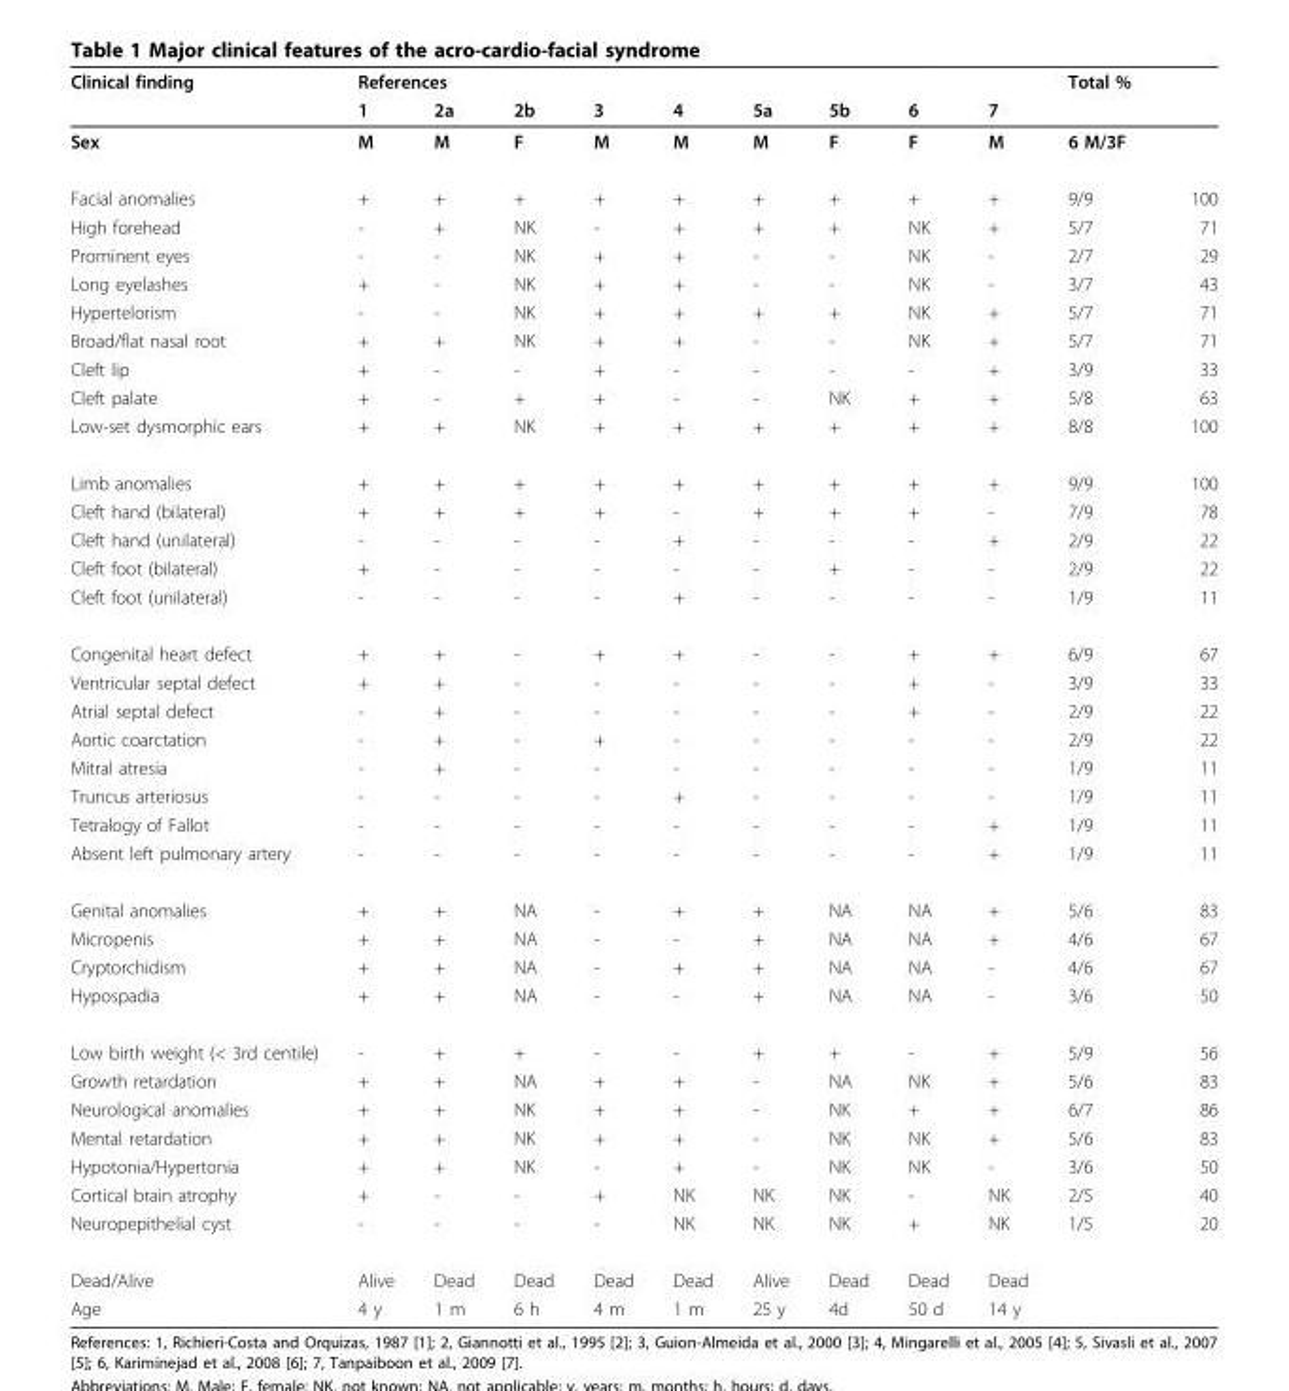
<table><thead><tr><td rowspan="2">Clinical finding</td><td colspan="9">References</td><td colspan="2">Total %</td></tr><tr><td>1</td><td>2a</td><td>2b</td><td>3</td><td>4</td><td>5a</td><td>5b</td><td>6</td><td>7</td><td></td><td></td></tr></thead><tbody><tr><td>Sex</td><td>M</td><td>M</td><td>F</td><td>M</td><td>M</td><td>M</td><td>F</td><td>F</td><td>M</td><td>6 M/3F</td><td></td></tr><tr><td>Facial anomalies</td><td>+</td><td>+</td><td>+</td><td>+</td><td>+</td><td>+</td><td>+</td><td>+</td><td>+</td><td>9/9</td><td>100</td></tr><tr><td>High forehead</td><td>-</td><td>+</td><td>NK</td><td>-</td><td>+</td><td>+</td><td>+</td><td>NK</td><td>+</td><td>5/7</td><td>71</td></tr><tr><td>Prominent eyes</td><td>-</td><td>-</td><td>NK</td><td>+</td><td>+</td><td>-</td><td>-</td><td>NK</td><td>-</td><td>2/7</td><td>29</td></tr><tr><td>Long eyelashes</td><td>+</td><td>-</td><td>NK</td><td>+</td><td>+</td><td>-</td><td>-</td><td>NK</td><td>-</td><td>3/7</td><td>43</td></tr><tr><td>Hypertelorism</td><td>-</td><td>-</td><td>NK</td><td>+</td><td>+</td><td>+</td><td>+</td><td>NK</td><td>+</td><td>5/7</td><td>71</td></tr><tr><td>Broad/flat nasal root</td><td>+</td><td>+</td><td>NK</td><td>+</td><td>+</td><td>-</td><td>-</td><td>NK</td><td>+</td><td>5/7</td><td>71</td></tr><tr><td>Cleft lip</td><td>+</td><td>-</td><td>-</td><td>+</td><td>-</td><td>-</td><td>-</td><td>-</td><td>+</td><td>3/9</td><td>33</td></tr><tr><td>Cleft palate</td><td>+</td><td>-</td><td>+</td><td>+</td><td>-</td><td>-</td><td>NK</td><td>+</td><td>+</td><td>5/8</td><td>63</td></tr><tr><td>Low-set dysmorphic ears</td><td>+</td><td>+</td><td>NK</td><td>+</td><td>+</td><td>+</td><td>+</td><td>+</td><td>+</td><td>8/8</td><td>100</td></tr><tr><td>Limb anomalies</td><td>+</td><td>+</td><td>+</td><td>+</td><td>+</td><td>+</td><td>+</td><td>+</td><td>+</td><td>9/9</td><td>100</td></tr><tr><td>Cleft hand (bilateral)</td><td>+</td><td>+</td><td>+</td><td>+</td><td>-</td><td>+</td><td>+</td><td>+</td><td>-</td><td>7/9</td><td>78</td></tr><tr><td>Cleft hand (unilateral)</td><td>-</td><td>-</td><td>-</td><td>-</td><td>+</td><td>-</td><td>-</td><td>-</td><td>+</td><td>2/9</td><td>22</td></tr><tr><td>Cleft foot (bilateral)</td><td>+</td><td>-</td><td>-</td><td>-</td><td>-</td><td>-</td><td>+</td><td>-</td><td>-</td><td>2/9</td><td>22</td></tr><tr><td>Cleft foot (unilateral)</td><td>-</td><td>-</td><td>-</td><td>-</td><td>+</td><td>-</td><td>-</td><td>-</td><td>-</td><td>1/9</td><td>11</td></tr><tr><td>Congenital heart defect</td><td>+</td><td>+</td><td>-</td><td>+</td><td>+</td><td>-</td><td>-</td><td>+</td><td>+</td><td>6/9</td><td>67</td></tr><tr><td>Ventricular septal defect</td><td>+</td><td>+</td><td>-</td><td>-</td><td>-</td><td>-</td><td>-</td><td>+</td><td>-</td><td>3/9</td><td>33</td></tr><tr><td>Atrial septal defect</td><td>-</td><td>+</td><td>-</td><td>-</td><td>-</td><td>-</td><td>-</td><td>+</td><td>-</td><td>2/9</td><td>22</td></tr><tr><td>Aortic coarctation</td><td>-</td><td>+</td><td>-</td><td>+</td><td>-</td><td>-</td><td>-</td><td>-</td><td>-</td><td>2/9</td><td>22</td></tr><tr><td>Mitral atresia</td><td>-</td><td>+</td><td>-</td><td>-</td><td>-</td><td>-</td><td>-</td><td>-</td><td>-</td><td>1/9</td><td>11</td></tr><tr><td>Truncus arteriosus</td><td>-</td><td>-</td><td>-</td><td>-</td><td>+</td><td>-</td><td>-</td><td>-</td><td>-</td><td>1/9</td><td>11</td></tr><tr><td>Tetralogy of Fallot</td><td>-</td><td>-</td><td>-</td><td>-</td><td>-</td><td>-</td><td>-</td><td>-</td><td>+</td><td>1/9</td><td>11</td></tr><tr><td>Absent left pulmonary artery</td><td>-</td><td>-</td><td>-</td><td>-</td><td>-</td><td>-</td><td>-</td><td>-</td><td>+</td><td>1/9</td><td>11</td></tr><tr><td>Genital anomalies</td><td>+</td><td>+</td><td>NA</td><td>-</td><td>+</td><td>+</td><td>NA</td><td>NA</td><td>+</td><td>5/6</td><td>83</td></tr><tr><td>Micropenis</td><td>+</td><td>+</td><td>NA</td><td>-</td><td>-</td><td>+</td><td>NA</td><td>NA</td><td>+</td><td>4/6</td><td>67</td></tr><tr><td>Cryptorchidism</td><td>+</td><td>+</td><td>NA</td><td>-</td><td>+</td><td>+</td><td>NA</td><td>NA</td><td>-</td><td>4/6</td><td>67</td></tr><tr><td>Hypospadia</td><td>+</td><td>+</td><td>NA</td><td>-</td><td>-</td><td>+</td><td>NA</td><td>NA</td><td>-</td><td>3/6</td><td>50</td></tr><tr><td>Low birth weight (&lt; 3rd centile)</td><td>-</td><td>+</td><td>+</td><td>-</td><td>-</td><td>+</td><td>+</td><td>-</td><td>+</td><td>5/9</td><td>56</td></tr><tr><td>Growth retardation</td><td>+</td><td>+</td><td>NA</td><td>+</td><td>+</td><td>-</td><td>NA</td><td>NK</td><td>+</td><td>5/6</td><td>83</td></tr><tr><td>Neurological anomalies</td><td>+</td><td>+</td><td>NK</td><td>+</td><td>+</td><td>-</td><td>NK</td><td>+</td><td>+</td><td>6/7</td><td>86</td></tr><tr><td>Mental retardation</td><td>+</td><td>+</td><td>NK</td><td>+</td><td>+</td><td>-</td><td>NK</td><td>NK</td><td>+</td><td>5/6</td><td>83</td></tr><tr><td>Hypotonia/Hypertonia</td><td>+</td><td>+</td><td>NK</td><td>-</td><td>+</td><td>-</td><td>NK</td><td>NK</td><td>-</td><td>3/6</td><td>50</td></tr><tr><td>Cortical brain atrophy</td><td>+</td><td>-</td><td>-</td><td>+</td><td>NK</td><td>NK</td><td>NK</td><td>-</td><td>NK</td><td>2/5</td><td>40</td></tr><tr><td>Neuropepithelial cyst</td><td>-</td><td>-</td><td>-</td><td>-</td><td>NK</td><td>NK</td><td>NK</td><td>+</td><td>NK</td><td>1/5</td><td>20</td></tr><tr><td>Dead/Alive</td><td>Alive</td><td>Dead</td><td>Dead</td><td>Dead</td><td>Dead</td><td>Alive</td><td>Dead</td><td>Dead</td><td>Dead</td><td></td><td></td></tr><tr><td>Age</td><td>4 y</td><td>1 m</td><td>6 h</td><td>4 m</td><td>1 m</td><td>25 y</td><td>4d</td><td>50 d</td><td>14 y</td><td></td><td></td></tr></tbody></table>